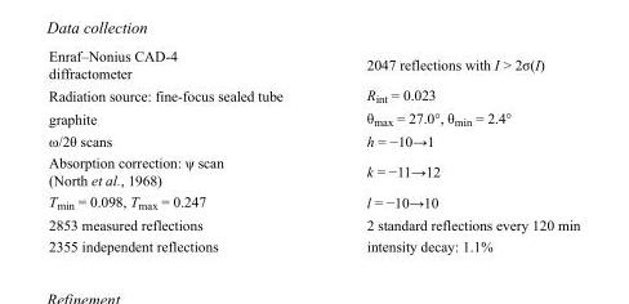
<table><tbody><tr><td>Enraf–Nonius CAD-4 diffractometer</td><td>2047 reflections with I &gt; 2σ(I)</td></tr><tr><td>Radiation source: fine-focus sealed tube</td><td>R<sub>int</sub> = 0.023</td></tr><tr><td>graphite</td><td>θ<sub>max</sub> = 27.0°, θ<sub>min</sub> = 2.4°</td></tr><tr><td>ω/2θ scans</td><td>h = −10→1</td></tr><tr><td>Absorption correction: ψ scan (North et al., 1968)</td><td>k = −11→12</td></tr><tr><td>T<sub>min</sub> = 0.098, T<sub>max</sub> = 0.247</td><td>l = −10→10</td></tr><tr><td>2853 measured reflections</td><td>2 standard reflections every 120 min</td></tr><tr><td>2355 independent reflections</td><td>intensity decay: 1.1%</td></tr></tbody></table>